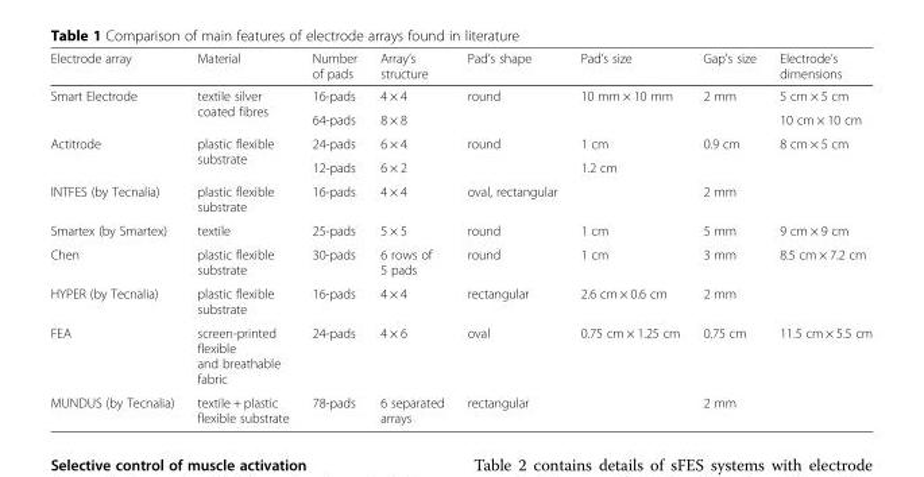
<table><thead><tr><td>Electrode array</td><td>Material</td><td>Number of pads</td><td>Array’s structure</td><td>Pad’s shape</td><td>Pad’s size</td><td>Gap&#x27;s size</td><td>Electrode’s dimensions</td></tr></thead><tbody><tr><td rowspan="2">Smart Electrode</td><td rowspan="2">textile silver coated fibres</td><td>16-pads</td><td>4 × 4</td><td rowspan="2">round</td><td rowspan="2">10 mm × 10 mm</td><td rowspan="2">2 mm</td><td>5 cm × 5 cm</td></tr><tr><td>64-pads</td><td>8 × 8</td><td>10 cm × 10 cm</td></tr><tr><td rowspan="2">Actitrode</td><td rowspan="2">plastic flexible substrate</td><td>24-pads</td><td>6 × 4</td><td rowspan="2">round</td><td>1 cm</td><td rowspan="2">0.9 cm</td><td>8 cm × 5 cm</td></tr><tr><td>12-pads</td><td>6 × 2</td><td>1.2 cm</td><td></td></tr><tr><td>INTFES (by Tecnalia)</td><td>plastic flexible substrate</td><td>16-pads</td><td>4 × 4</td><td>oval, rectangular</td><td></td><td>2 mm</td><td></td></tr><tr><td>Smartex (by Smartex)</td><td>textile</td><td>25-pads</td><td>5 × 5</td><td>round</td><td>1 cm</td><td>5 mm</td><td>9 cm × 9 cm</td></tr><tr><td>Chen</td><td>plastic flexible substrate</td><td>30-pads</td><td>6 rows of 5 pads</td><td>round</td><td>1 cm</td><td>3 mm</td><td>8.5 cm × 7.2 cm</td></tr><tr><td>HYPER (by Tecnalia)</td><td>plastic flexible substrate</td><td>16-pads</td><td>4 × 4</td><td>rectangular</td><td>2.6 cm × 0.6 cm</td><td>2 mm</td><td></td></tr><tr><td>FEA</td><td>screen-printed flexible and breathable fabric</td><td>24-pads</td><td>4 × 6</td><td>oval</td><td>0.75 cm × 1.25 cm</td><td>0.75 cm</td><td>11.5 cm × 5.5 cm</td></tr><tr><td>MUNDUS (by Tecnalia)</td><td>textile + plastic flexible substrate</td><td>78-pads</td><td>6 separated arrays</td><td>rectangular</td><td></td><td>2 mm</td><td></td></tr></tbody></table>